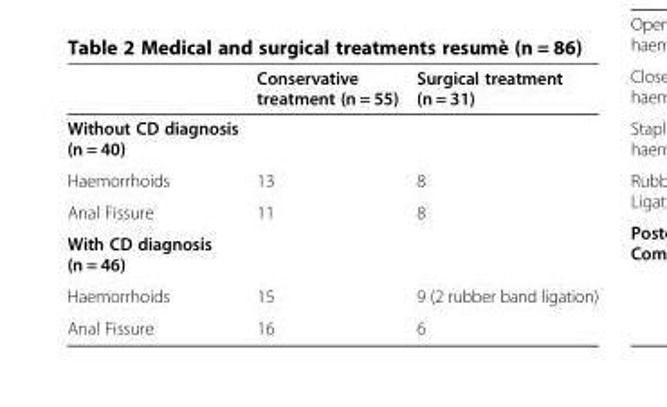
<table><thead><tr><td></td><td>Conservative treatment (n = 55)</td><td>Surgical treatment (n = 31)</td></tr></thead><tbody><tr><td colspan="3">Without CD diagnosis (n = 40)</td></tr><tr><td>Haemorrhoids</td><td>13</td><td>8</td></tr><tr><td>Anal Fissure</td><td>11</td><td>8</td></tr><tr><td colspan="3">With CD diagnosis (n = 46)</td></tr><tr><td>Haemorrhoids</td><td>15</td><td>9 (2 rubber band ligation)</td></tr><tr><td>Anal Fissure</td><td>16</td><td>6</td></tr></tbody></table>